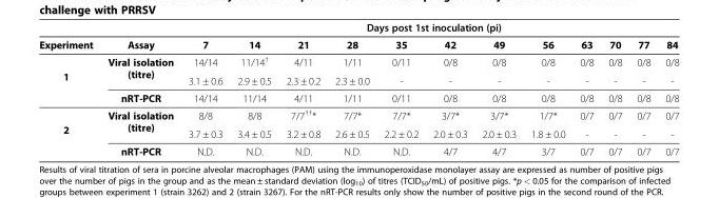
<table><tbody><tr><td>Experiment</td><td>Assay</td><td>7</td><td>14</td><td>21</td><td>28</td><td>35</td><td>42</td><td>49</td><td>56</td><td>63</td><td>70</td><td>77</td><td>84</td></tr><tr><td rowspan="3">1</td><td rowspan="2">Viral isolation (titre)</td><td>14/14</td><td>11/14<sup>†</sup></td><td>4/11</td><td>1/11</td><td>0/11</td><td>0/8</td><td>0/8</td><td>0/8</td><td>0/8</td><td>0/8</td><td>0/8</td><td>0/8</td></tr><tr><td>3.1 ± 0.6</td><td>2.9 ± 0.5</td><td>2.3 ± 0.2</td><td>2.3 ± 0.0</td><td>-</td><td>-</td><td>-</td><td>-</td><td>-</td><td>-</td><td>-</td><td>-</td></tr><tr><td>nRT-PCR</td><td>14/14</td><td>11/14</td><td>4/11</td><td>1/11</td><td>0/11</td><td>0/8</td><td>0/8</td><td>0/8</td><td>0/8</td><td>0/8</td><td>0/8</td><td>0/8</td></tr><tr><td rowspan="3">2</td><td rowspan="2">Viral isolation (titre)</td><td>8/8</td><td>8/8</td><td>7/7<sup>††</sup>*</td><td>7/7*</td><td>7/7*</td><td>3/7*</td><td>3/7*</td><td>1/7*</td><td>0/7</td><td>0/7</td><td>0/7</td><td>0/7</td></tr><tr><td>3.7 ± 0.3</td><td>3.4 ± 0.5</td><td>3.2 ± 0.8</td><td>2.6 ± 0.5</td><td>2.2 ± 0.2</td><td>2.0 ± 0.3</td><td>2.0 ± 0.3</td><td>1.8 ± 0.0</td><td>-</td><td>-</td><td>-</td><td>-</td></tr><tr><td>nRT-PCR</td><td>N.D.</td><td>N.D.</td><td>N.D.</td><td>N.D.</td><td>N.D.</td><td>4/7</td><td>4/7</td><td>3/7</td><td>0/7</td><td>0/7</td><td>0/7</td><td>0/7</td></tr></tbody></table>